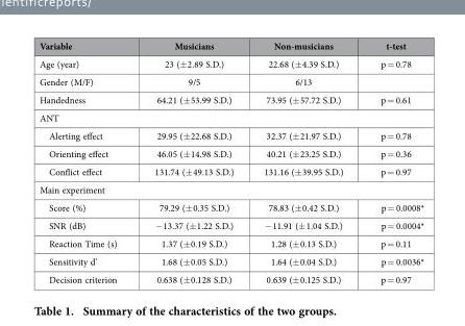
<table><thead><tr><td>Variable</td><td>Musicians</td><td>Non-musicians</td><td>t-test</td></tr></thead><tbody><tr><td>Age (year)</td><td>23 (± 2.89 S.D.)</td><td>22.68 (± 4.39 S.D.)</td><td>p = 0.78</td></tr><tr><td>Gender (M/F)</td><td>9/5</td><td>6/13</td><td></td></tr><tr><td>Handedness</td><td>64.21 (± 53.99 S.D.)</td><td>73.95 (± 57.72 S.D.)</td><td>p = 0.61</td></tr><tr><td colspan="4">ANT</td></tr><tr><td>Alerting effect</td><td>29.95 (± 22.68 S.D.)</td><td>32.37 (± 21.97 S.D.)</td><td>p = 0.78</td></tr><tr><td>Orienting effect</td><td>46.05 (± 14.98 S.D.)</td><td>40.21 (± 23.25 S.D.)</td><td>p = 0.36</td></tr><tr><td>Conflict effect</td><td>131.74 (± 49.13 S.D.)</td><td>131.16 (± 39.95 S.D.)</td><td>p = 0.97</td></tr><tr><td colspan="4">Main experiment</td></tr><tr><td>Score (%)</td><td>79.29 (± 0.35 S.D.)</td><td>78.83 (± 0.42 S.D.)</td><td>p = 0.0008*</td></tr><tr><td>SNR (dB)</td><td>− 13.37 (± 1.22 S.D.)</td><td>− 11.91 (± 1.04 S.D.)</td><td>p = 0.0004*</td></tr><tr><td>Reaction Time (s)</td><td>1.37 (± 0.19 S.D.)</td><td>1.28 (± 0.13 S.D.)</td><td>p = 0.11</td></tr><tr><td>Sensitivity d’</td><td>1.68 (± 0.05 S.D.)</td><td>1.64 (± 0.04 S.D.)</td><td>p = 0.0036*</td></tr><tr><td>Decision criterion</td><td>0.638 (± 0.128 S.D.)</td><td>0.639 (± 0.125 S.D.)</td><td>p = 0.97</td></tr></tbody></table>